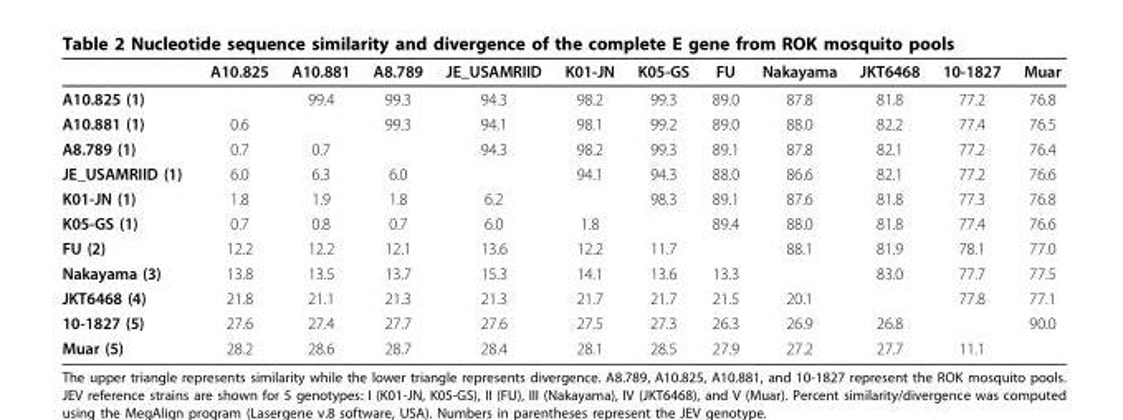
<table><thead><tr><td></td><td>A10.825</td><td>A10.881</td><td>A8.789</td><td>JE_USAMRIID</td><td>K01-JN</td><td>K05-GS</td><td>FU</td><td>Nakayama</td><td>JKT6468</td><td>10-1827</td><td>Muar</td></tr></thead><tbody><tr><td>A10.825 (1)</td><td></td><td>99.4</td><td>99.3</td><td>94.3</td><td>98.2</td><td>99.3</td><td>89.0</td><td>87.8</td><td>81.8</td><td>77.2</td><td>76.8</td></tr><tr><td>A10.881 (1)</td><td>0.6</td><td></td><td>99.3</td><td>94.1</td><td>98.1</td><td>99.2</td><td>89.0</td><td>88.0</td><td>82.2</td><td>77.4</td><td>76.5</td></tr><tr><td>A8.789 (1)</td><td>0.7</td><td>0.7</td><td></td><td>94.3</td><td>98.2</td><td>99.3</td><td>89.1</td><td>87.8</td><td>82.1</td><td>77.2</td><td>76.4</td></tr><tr><td>JE_USAMRIID (1)</td><td>6.0</td><td>6.3</td><td>6.0</td><td></td><td>94.1</td><td>94.3</td><td>88.0</td><td>86.6</td><td>82.1</td><td>77.2</td><td>76.6</td></tr><tr><td>K01-JN (1)</td><td>1.8</td><td>1.9</td><td>1.8</td><td>6.2</td><td></td><td>98.3</td><td>89.1</td><td>87.6</td><td>81.8</td><td>77.3</td><td>76.8</td></tr><tr><td>K05-GS (1)</td><td>0.7</td><td>0.8</td><td>0.7</td><td>6.0</td><td>1.8</td><td></td><td>89.4</td><td>88.0</td><td>81.8</td><td>77.4</td><td>76.6</td></tr><tr><td>FU (2)</td><td>12.2</td><td>12.2</td><td>12.1</td><td>13.6</td><td>12.2</td><td>11.7</td><td></td><td>88.1</td><td>81.9</td><td>78.1</td><td>77.0</td></tr><tr><td>Nakayama (3)</td><td>13.8</td><td>13.5</td><td>13.7</td><td>15.3</td><td>14.1</td><td>13.6</td><td>13.3</td><td></td><td>83.0</td><td>77.7</td><td>77.5</td></tr><tr><td>JKT6468 (4)</td><td>21.8</td><td>21.1</td><td>21.3</td><td>21.3</td><td>21.7</td><td>21.7</td><td>21.5</td><td>20.1</td><td></td><td>77.8</td><td>77.1</td></tr><tr><td>10-1827 (5)</td><td>27.6</td><td>27.4</td><td>27.7</td><td>27.6</td><td>27.5</td><td>27.3</td><td>26.3</td><td>26.9</td><td>26.8</td><td></td><td>90.0</td></tr><tr><td>Muar (5)</td><td>28.2</td><td>28.6</td><td>28.7</td><td>28.4</td><td>28.1</td><td>28.5</td><td>27.9</td><td>27.2</td><td>27.7</td><td>11.1</td><td></td></tr></tbody></table>